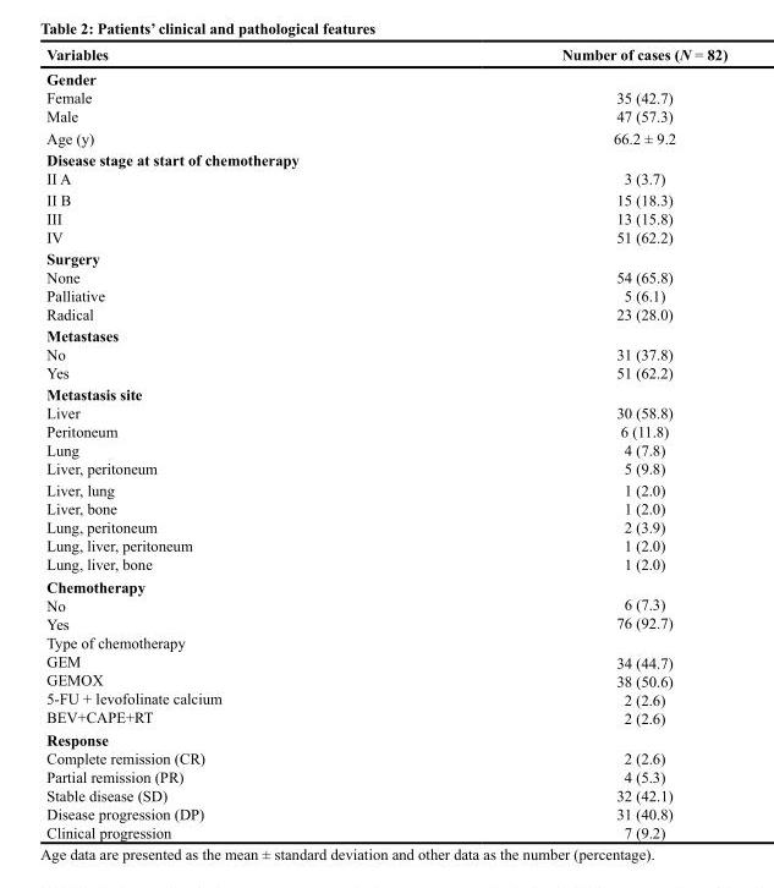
<table><thead><tr><td>Variables</td><td>Number of cases (N = 82)</td></tr></thead><tbody><tr><td>Gender Female Male</td><td>35 (42.7) 47 (57.3)</td></tr><tr><td>Age (y)</td><td>66.2 ± 9.2</td></tr><tr><td>Disease stage at start of chemotherapy II A</td><td>3 (3.7)</td></tr><tr><td>II B III IV</td><td>15 (18.3) 13 (15.8) 51 (62.2)</td></tr><tr><td>Surgery None Palliative Radical</td><td>54 (65.8) 5 (6.1) 23 (28.0)</td></tr><tr><td>Metastases No Yes</td><td>31 (37.8) 51 (62.2)</td></tr><tr><td>Metastasis site Liver Peritoneum Lung Liver, peritoneum</td><td>30 (58.8) 6 (11.8) 4 (7.8) 5 (9.8)</td></tr><tr><td>Liver, lung Liver, bone Lung, peritoneum Lung, liver, peritoneum Lung, liver, bone</td><td>1 (2.0) 1 (2.0) 2 (3.9) 1 (2.0) 1 (2.0)</td></tr><tr><td rowspan="2">Chemotherapy No Yes Type of chemotherapy GEM GEMOX 5-FU + levofolinate calcium BEV+CAPE+RT</td><td>6 (7.3) 76 (92.7)</td></tr><tr><td>34 (44.7) 38 (50.6) 2 (2.6) 2 (2.6)</td></tr><tr><td>Response Complete remission (CR) Partial remission (PR) Stable disease (SD) Disease progression (DP) Clinical progression</td><td>2 (2.6) 4 (5.3) 32 (42.1) 31 (40.8) 7 (9.2)</td></tr></tbody></table>